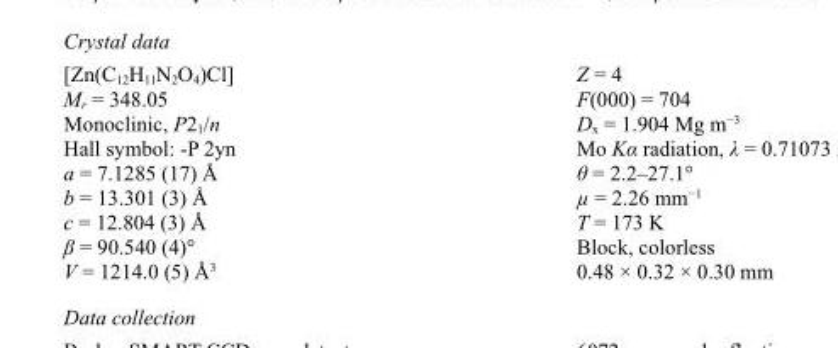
<table><tbody><tr><td>[Zn(C<sub>12</sub>H<sub>11</sub>N<sub>2</sub>O<sub>4</sub>)Cl]</td><td>Z = 4</td></tr><tr><td>M<sub>r</sub> = 348.05</td><td>F(000) = 704</td></tr><tr><td>Monoclinic, P2<sub>1</sub>/n</td><td>D<sub>x</sub> = 1.904 Mg m<sup>−3</sup></td></tr><tr><td>Hall symbol: -P 2yn</td><td>Mo Kα radiation, λ =</td></tr><tr><td>a = 7.1285 (17) Å</td><td>θ = 2.2–27.1°</td></tr><tr><td>b = 13.301 (3) Å</td><td>µ = 2.26 mm<sup>−1</sup></td></tr><tr><td>c = 12.804 (3) Å</td><td>T = 173 K</td></tr><tr><td>β = 90.540 (4)°</td><td>Block, colorless</td></tr><tr><td>V = 1214.0 (5) Å<sup>3</sup></td><td>0.48 × 0.32 × 0.30 mm</td></tr></tbody></table>